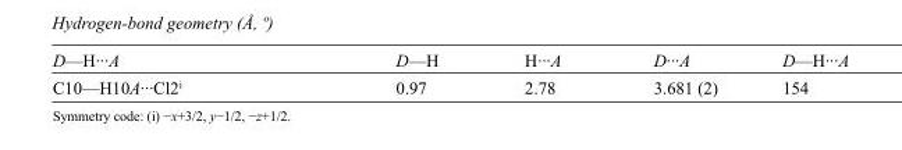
<table><tbody><tr><td>D—H···A</td><td>D—H</td><td>H···A</td><td>D···A</td><td>D—H···A</td></tr><tr><td>C10—H10A···Cl2<sup>i</sup></td><td>0.97</td><td>2.78</td><td>3.681 (2)</td><td>154</td></tr></tbody></table>